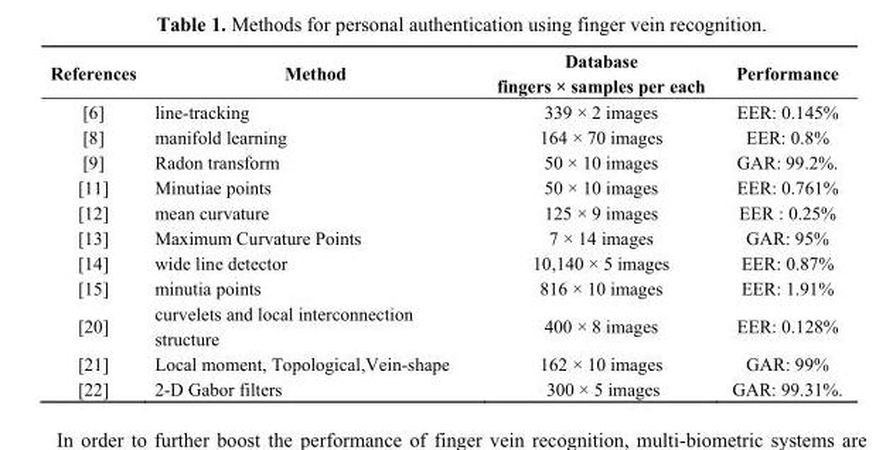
<table><thead><tr><td>References</td><td>Method</td><td>Database fingers × samples per each</td><td>Performance</td></tr></thead><tbody><tr><td>[6]</td><td>line-tracking</td><td>339 × 2 images</td><td>EER: 0.145%</td></tr><tr><td>[8]</td><td>manifold learning</td><td>164 × 70 images</td><td>EER: 0.8%</td></tr><tr><td>[9]</td><td>Radon transform</td><td>50 × 10 images</td><td>GAR: 99.2%.</td></tr><tr><td>[11]</td><td>Minutiae points</td><td>50 × 10 images</td><td>EER: 0.761%</td></tr><tr><td>[12]</td><td>mean curvature</td><td>125 × 9 images</td><td>EER : 0.25%</td></tr><tr><td>[13]</td><td>Maximum Curvature Points</td><td>7 × 14 images</td><td>GAR: 95%</td></tr><tr><td>[14]</td><td>wide line detector</td><td>10,140 × 5 images</td><td>EER: 0.87%</td></tr><tr><td>[15]</td><td>minutia points</td><td>816 × 10 images</td><td>EER: 1.91%</td></tr><tr><td>[20]</td><td>curvelets and local interconnection structure</td><td>400 × 8 images</td><td>EER: 0.128%</td></tr><tr><td>[21]</td><td>Local moment, Topological,Vein-shape</td><td>162 × 10 images</td><td>GAR: 99%</td></tr><tr><td>[22]</td><td>2-D Gabor filters</td><td>300 × 5 images</td><td>GAR: 99.31%.</td></tr></tbody></table>